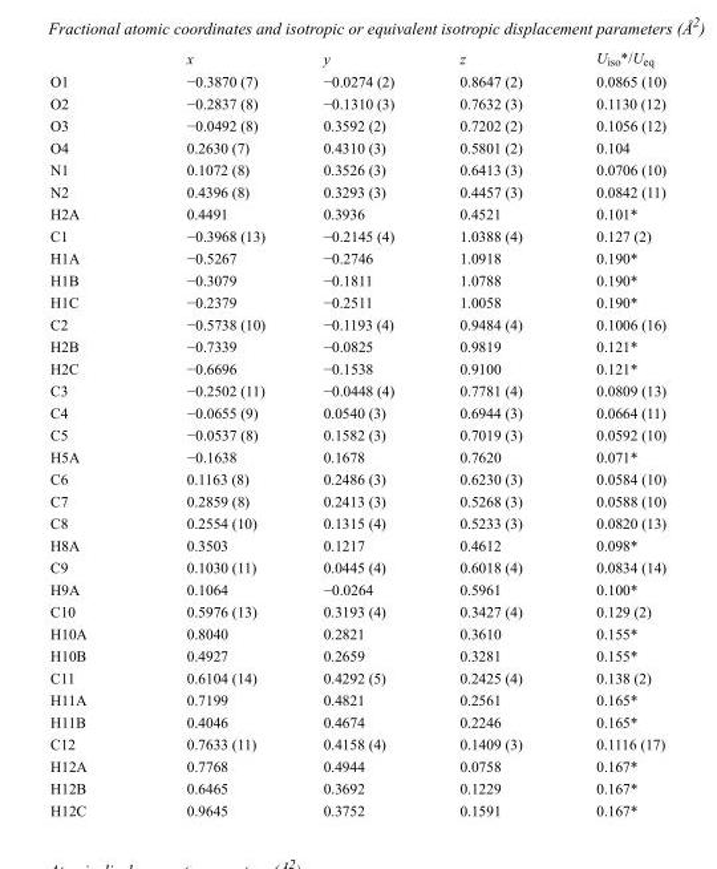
<table><thead><tr><td></td><td>x</td><td>y</td><td>z</td><td>U<sub>iso</sub>*/U<sub>eq</sub></td></tr></thead><tbody><tr><td>O1</td><td>−0.3870 (7)</td><td>−0.0274 (2)</td><td>0.8647 (2)</td><td>0.0865 (10)</td></tr><tr><td>O2</td><td>−0.2837 (8)</td><td>−0.1310 (3)</td><td>0.7632 (3)</td><td>0.1130 (12)</td></tr><tr><td>O3</td><td>−0.0492 (8)</td><td>0.3592 (2)</td><td>0.7202 (2)</td><td>0.1056 (12)</td></tr><tr><td>O4</td><td>0.2630 (7)</td><td>0.4310 (3)</td><td>0.5801 (2)</td><td>0.104</td></tr><tr><td>N1</td><td>0.1072 (8)</td><td>0.3526 (3)</td><td>0.6413 (3)</td><td>0.0706 (10)</td></tr><tr><td>N2</td><td>0.4396 (8)</td><td>0.3293 (3)</td><td>0.4457 (3)</td><td>0.0842 (11)</td></tr><tr><td>H2A</td><td>0.4491</td><td>0.3936</td><td>0.4521</td><td>0.101*</td></tr><tr><td>C1</td><td>−0.3968 (13)</td><td>−0.2145 (4)</td><td>1.0388 (4)</td><td>0.127 (2)</td></tr><tr><td>H1A</td><td>−0.5267</td><td>−0.2746</td><td>1.0918</td><td>0.190*</td></tr><tr><td>H1B</td><td>−0.3079</td><td>−0.1811</td><td>1.0788</td><td>0.190*</td></tr><tr><td>H1C</td><td>−0.2379</td><td>−0.2511</td><td>1.0058</td><td>0.190*</td></tr><tr><td>C2</td><td>−0.5738 (10)</td><td>−0.1193 (4)</td><td>0.9484 (4)</td><td>0.1006 (16)</td></tr><tr><td>H2B</td><td>−0.7339</td><td>−0.0825</td><td>0.9819</td><td>0.121*</td></tr><tr><td>H2C</td><td>−0.6696</td><td>−0.1538</td><td>0.9100</td><td>0.121*</td></tr><tr><td>C3</td><td>−0.2502 (11)</td><td>−0.0448 (4)</td><td>0.7781 (4)</td><td>0.0809 (13)</td></tr><tr><td>C4</td><td>−0.0655 (9)</td><td>0.0540 (3)</td><td>0.6944 (3)</td><td>0.0664 (11)</td></tr><tr><td>C5</td><td>−0.0537 (8)</td><td>0.1582 (3)</td><td>0.7019 (3)</td><td>0.0592 (10)</td></tr><tr><td>H5A</td><td>−0.1638</td><td>0.1678</td><td>0.7620</td><td>0.071*</td></tr><tr><td>C6</td><td>0.1163 (8)</td><td>0.2486 (3)</td><td>0.6230 (3)</td><td>0.0584 (10)</td></tr><tr><td>C7</td><td>0.2859 (8)</td><td>0.2413 (3)</td><td>0.5268 (3)</td><td>0.0588 (10)</td></tr><tr><td>C8</td><td>0.2554 (10)</td><td>0.1315 (4)</td><td>0.5233 (3)</td><td>0.0820 (13)</td></tr><tr><td>H8A</td><td>0.3503</td><td>0.1217</td><td>0.4612</td><td>0.098*</td></tr><tr><td>C9</td><td>0.1030 (11)</td><td>0.0445 (4)</td><td>0.6018 (4)</td><td>0.0834 (14)</td></tr><tr><td>H9A</td><td>0.1064</td><td>−0.0264</td><td>0.5961</td><td>0.100*</td></tr><tr><td>C10</td><td>0.5976 (13)</td><td>0.3193 (4)</td><td>0.3427 (4)</td><td>0.129 (2)</td></tr><tr><td>H10A</td><td>0.8040</td><td>0.2821</td><td>0.3610</td><td>0.155*</td></tr><tr><td>H10B</td><td>0.4927</td><td>0.2659</td><td>0.3281</td><td>0.155*</td></tr><tr><td>C11</td><td>0.6104 (14)</td><td>0.4292 (5)</td><td>0.2425 (4)</td><td>0.138 (2)</td></tr><tr><td>H11A</td><td>0.7199</td><td>0.4821</td><td>0.2561</td><td>0.165*</td></tr><tr><td>H11B</td><td>0.4046</td><td>0.4674</td><td>0.2246</td><td>0.165*</td></tr><tr><td>C12</td><td>0.7633 (11)</td><td>0.4158 (4)</td><td>0.1409 (3)</td><td>0.1116 (17)</td></tr><tr><td>H12A</td><td>0.7768</td><td>0.4944</td><td>0.0758</td><td>0.167*</td></tr><tr><td>H12B</td><td>0.6465</td><td>0.3692</td><td>0.1229</td><td>0.167*</td></tr><tr><td>H12C</td><td>0.9645</td><td>0.3752</td><td>0.1591</td><td>0.167*</td></tr></tbody></table>